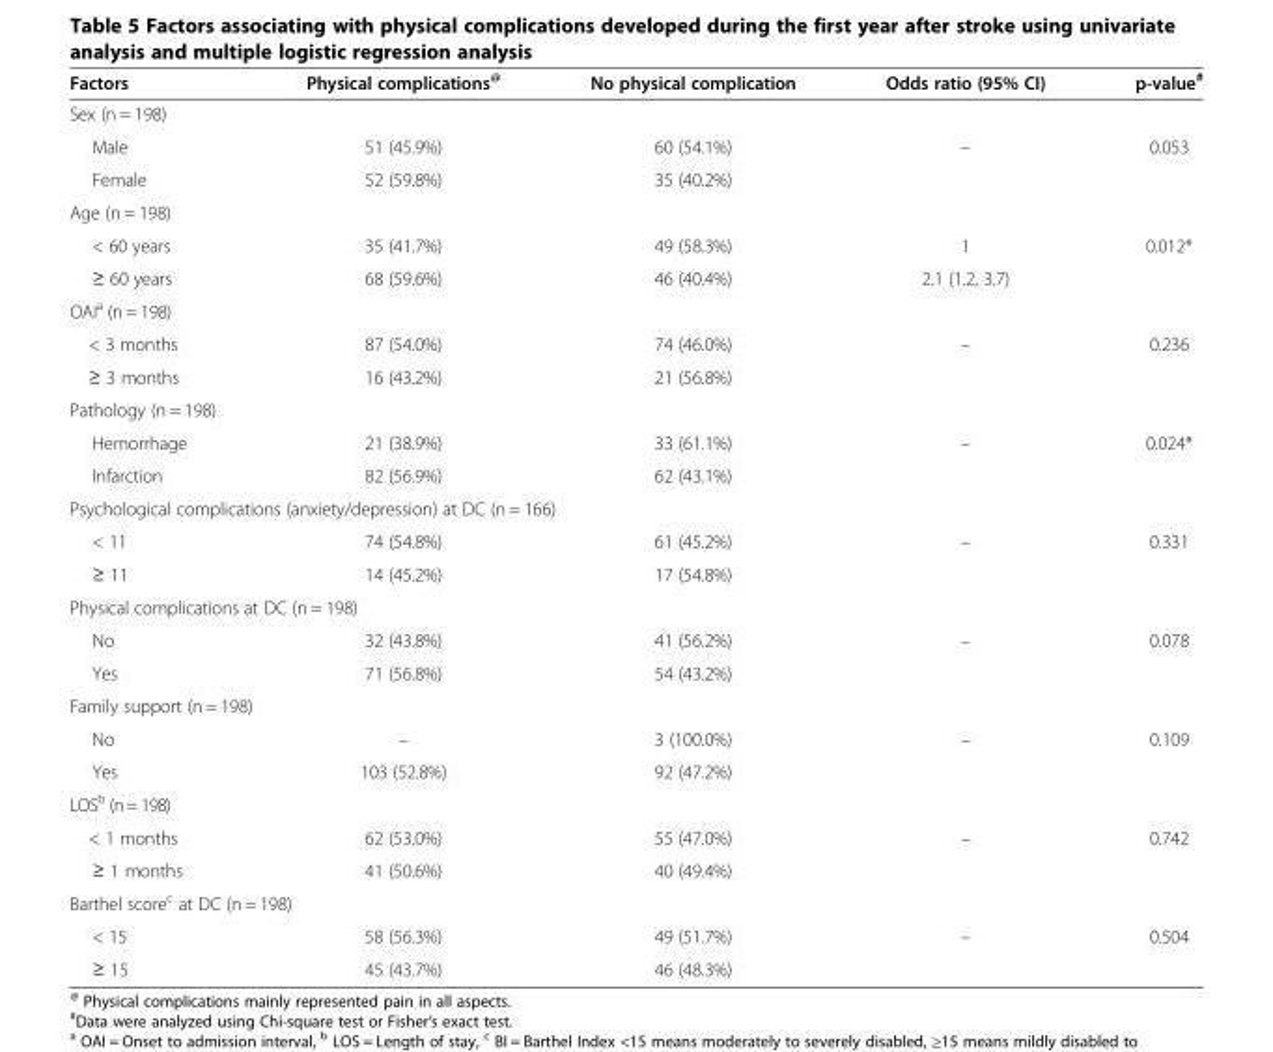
<table><thead><tr><td>Factors</td><td>Physical complications<sup>@</sup></td><td>No physical complication</td><td>Odds ratio (95% CI)</td><td>p-value<sup>#</sup></td></tr></thead><tbody><tr><td colspan="5">Sex (n = 198)</td></tr><tr><td>Male</td><td>51 (45.9%)</td><td>60 (54.1%)</td><td>–</td><td>0.053</td></tr><tr><td>Female</td><td>52 (59.8%)</td><td>35 (40.2%)</td><td></td><td></td></tr><tr><td colspan="5">Age (n = 198)</td></tr><tr><td>&lt; 60 years</td><td>35 (41.7%)</td><td>49 (58.3%)</td><td>1</td><td>0.012*</td></tr><tr><td>≥ 60 years</td><td>68 (59.6%)</td><td>46 (40.4%)</td><td>2.1 (1.2, 3.7)</td><td></td></tr><tr><td colspan="5">OAI<sup>a</sup> (n = 198)</td></tr><tr><td>&lt; 3 months</td><td>87 (54.0%)</td><td>74 (46.0%)</td><td>–</td><td>0.236</td></tr><tr><td>≥ 3 months</td><td>16 (43.2%)</td><td>21 (56.8%)</td><td></td><td></td></tr><tr><td colspan="5">Pathology (n = 198)</td></tr><tr><td>Hemorrhage</td><td>21 (38.9%)</td><td>33 (61.1%)</td><td>–</td><td>0.024*</td></tr><tr><td>Infarction</td><td>82 (56.9%)</td><td>62 (43.1%)</td><td></td><td></td></tr><tr><td colspan="5">Psychological complications (anxiety/depression) at DC (n = 166)</td></tr><tr><td>&lt; 11</td><td>74 (54.8%)</td><td>61 (45.2%)</td><td>–</td><td>0.331</td></tr><tr><td>≥ 11</td><td>14 (45.2%)</td><td>17 (54.8%)</td><td></td><td></td></tr><tr><td colspan="5">Physical complications at DC (n = 198)</td></tr><tr><td>No</td><td>32 (43.8%)</td><td>41 (56.2%)</td><td>–</td><td>0.078</td></tr><tr><td>Yes</td><td>71 (56.8%)</td><td>54 (43.2%)</td><td></td><td></td></tr><tr><td colspan="5">Family support (n = 198)</td></tr><tr><td>No</td><td>–</td><td>3 (100.0%)</td><td>–</td><td>0.109</td></tr><tr><td>Yes</td><td>103 (52.8%)</td><td>92 (47.2%)</td><td></td><td></td></tr><tr><td colspan="5">LOS<sup>b</sup> (n = 198)</td></tr><tr><td>&lt; 1 months</td><td>62 (53.0%)</td><td>55 (47.0%)</td><td>–</td><td>0.742</td></tr><tr><td>≥ 1 months</td><td>41 (50.6%)</td><td>40 (49.4%)</td><td></td><td></td></tr><tr><td colspan="5">Barthel score<sup>c</sup> at DC (n = 198)</td></tr><tr><td>&lt; 15</td><td>58 (56.3%)</td><td>49 (51.7%)</td><td>–</td><td>0.504</td></tr><tr><td>≥ 15</td><td>45 (43.7%)</td><td>46 (48.3%)</td><td></td><td></td></tr></tbody></table>